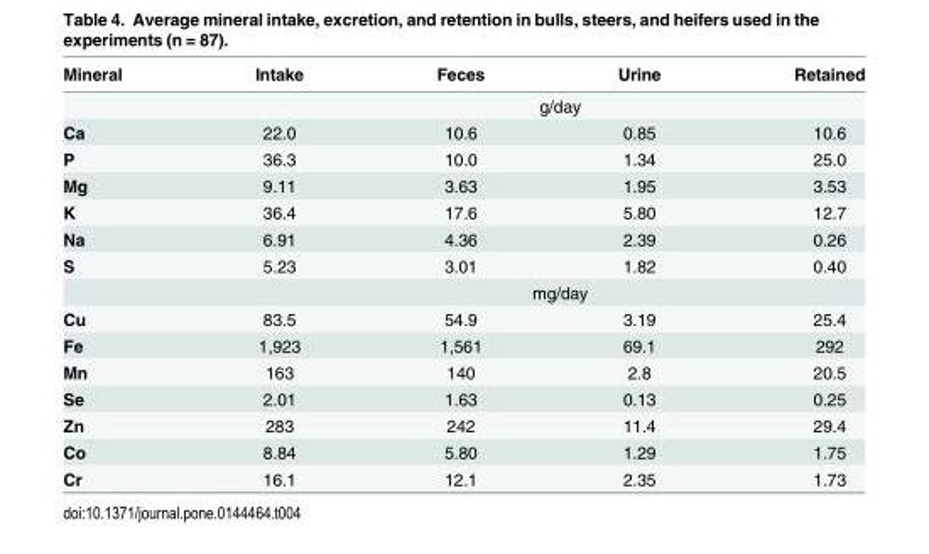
<table><thead><tr><td>Mineral</td><td>Intake</td><td>Feces</td><td>Urine</td><td>Retained</td></tr></thead><tbody><tr><td></td><td colspan="4">g/day</td></tr><tr><td>Ca</td><td>22.0</td><td>10.6</td><td>0.85</td><td>10.6</td></tr><tr><td>P</td><td>36.3</td><td>10.0</td><td>1.34</td><td>25.0</td></tr><tr><td>Mg</td><td>9.11</td><td>3.63</td><td>1.95</td><td>3.53</td></tr><tr><td>K</td><td>36.4</td><td>17.6</td><td>5.80</td><td>12.7</td></tr><tr><td>Na</td><td>6.91</td><td>4.36</td><td>2.39</td><td>0.26</td></tr><tr><td rowspan="2">S</td><td>5.23</td><td>3.01</td><td>1.82</td><td>0.40</td></tr><tr><td colspan="4">mg/day</td></tr><tr><td>Cu</td><td>83.5</td><td>54.9</td><td>3.19</td><td>25.4</td></tr><tr><td>Fe</td><td>1,923</td><td>1,561</td><td>69.1</td><td>292</td></tr><tr><td>Mn</td><td>163</td><td>140</td><td>2.8</td><td>20.5</td></tr><tr><td>Se</td><td>2.01</td><td>1.63</td><td>0.13</td><td>0.25</td></tr><tr><td>Zn</td><td>283</td><td>242</td><td>11.4</td><td>29.4</td></tr><tr><td>Co</td><td>8.84</td><td>5.80</td><td>1.29</td><td>1.75</td></tr><tr><td>Cr</td><td>16.1</td><td>12.1</td><td>2.35</td><td>1.73</td></tr></tbody></table>